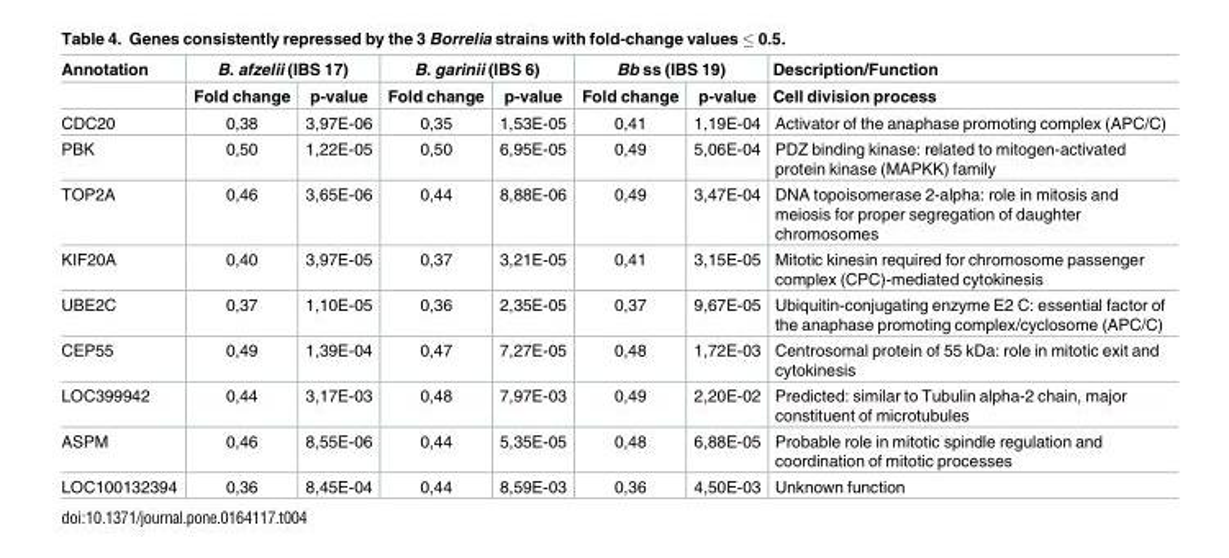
<table><thead><tr><td rowspan="2">Annotation</td><td colspan="2">B. afzelii (IBS 17)</td><td colspan="2">B. garinii (IBS 6)</td><td colspan="2">Bb ss (IBS 19)</td><td rowspan="2">Description/Function Cell division process</td></tr><tr><td>Fold change</td><td>p-value</td><td>Fold change</td><td>p-value</td><td>Fold change</td><td>p-value</td></tr></thead><tbody><tr><td>CDC20</td><td>0,38</td><td>3,97E-06</td><td>0,35</td><td>1,53E-05</td><td>0,41</td><td>1,19E-04</td><td>Activator of the anaphase promoting complex (APC/C)</td></tr><tr><td>PBK</td><td>0,50</td><td>1,22E-05</td><td>0,50</td><td>6,95E-05</td><td>0,49</td><td>5,06E-04</td><td>PDZ binding kinase: related to mitogen-activated protein kinase (MAPKK) family</td></tr><tr><td>TOP2A</td><td>0,46</td><td>3,65E-06</td><td>0,44</td><td>8,88E-06</td><td>0,49</td><td>3,47E-04</td><td>DNA topoisomerase 2-alpha: role in mitosis and meiosis for proper segregation of daughter chromosomes</td></tr><tr><td>KIF20A</td><td>0,40</td><td>3,97E-05</td><td>0,37</td><td>3,21E-05</td><td>0,41</td><td>3,15E-05</td><td>Mitotic kinesin required for chromosome passenger complex (CPC)-mediated cytokinesis</td></tr><tr><td>UBE2C</td><td>0,37</td><td>1,10E-05</td><td>0,36</td><td>2,35E-05</td><td>0,37</td><td>9,67E-05</td><td>Ubiquitin-conjugating enzyme E2 C: essential factor of the anaphase promoting complex/cyclosome (APC/C)</td></tr><tr><td>CEP55</td><td>0,49</td><td>1,39E-04</td><td>0,47</td><td>7,27E-05</td><td>0,48</td><td>1,72E-03</td><td>Centrosomal protein of 55 kDa: role in mitotic exit and cytokinesis</td></tr><tr><td>LOC399942</td><td>0,44</td><td>3,17E-03</td><td>0,48</td><td>7,97E-03</td><td>0,49</td><td>2,20E-02</td><td>Predicted: similar to Tubulin alpha-2 chain, major constituent of microtubules</td></tr><tr><td>ASPM</td><td>0,46</td><td>8,55E-06</td><td>0,44</td><td>5,35E-05</td><td>0,48</td><td>6,88E-05</td><td>Probable role in mitotic spindle regulation and coordination of mitotic processes</td></tr><tr><td>LOC100132394</td><td>0,36</td><td>8,45E-04</td><td>0,44</td><td>8,59E-03</td><td>0,36</td><td>4,50E-03</td><td>Unknown function</td></tr></tbody></table>